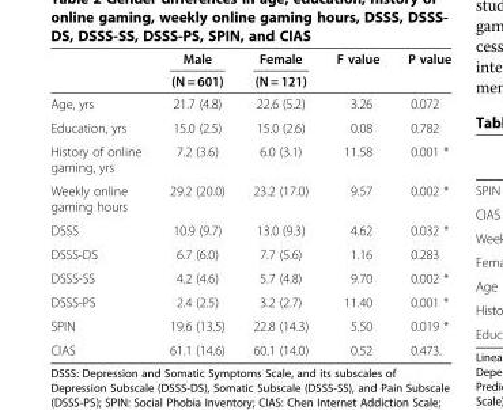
<table><thead><tr><td rowspan="2"></td><td rowspan="2">Male (N = 601)</td><td rowspan="2">Female (N = 121)</td><td rowspan="2">F value</td><td rowspan="2">P value</td></tr><tr></tr></thead><tbody><tr><td>Age, yrs</td><td>21.7 (4.8)</td><td>22.6 (5.2)</td><td>3.26</td><td>0.072</td></tr><tr><td>Education, yrs</td><td>15.0 (2.5)</td><td>15.0 (2.6)</td><td>0.08</td><td>0.782</td></tr><tr><td>History of online gaming, yrs</td><td>7.2 (3.6)</td><td>6.0 (3.1)</td><td>11.58</td><td>0.001 *</td></tr><tr><td>Weekly online gaming hours</td><td>29.2 (20.0)</td><td>23.2 (17.0)</td><td>9.57</td><td>0.002 *</td></tr><tr><td>DSSS</td><td>10.9 (9.7)</td><td>13.0 (9.3)</td><td>4.62</td><td>0.032 *</td></tr><tr><td>DSSS-DS</td><td>6.7 (6.0)</td><td>7.7 (5.6)</td><td>1.16</td><td>0.283</td></tr><tr><td>DSSS-SS</td><td>4.2 (4.6)</td><td>5.7 (4.8)</td><td>9.70</td><td>0.002 *</td></tr><tr><td>DSSS-PS</td><td>2.4 (2.5)</td><td>3.2 (2.7)</td><td>11.40</td><td>0.001 *</td></tr><tr><td>SPIN</td><td>19.6 (13.5)</td><td>22.8 (14.3)</td><td>5.50</td><td>0.019 *</td></tr><tr><td>CIAS</td><td>61.1 (14.6)</td><td>60.1 (14.0)</td><td>0.52</td><td>0.473.</td></tr></tbody></table>